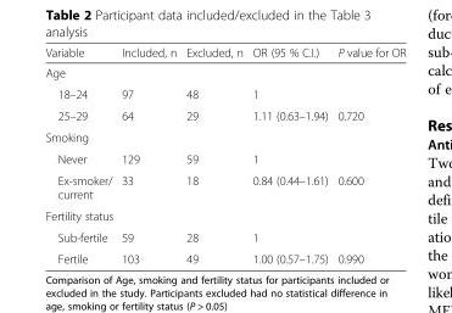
<table><thead><tr><td>Variable</td><td>Included, n</td><td>Excluded, n</td><td>OR (95 % C.I.)</td><td>P value for OR</td></tr></thead><tbody><tr><td colspan="5">Age</td></tr><tr><td>18–24</td><td>97</td><td>48</td><td>1</td><td></td></tr><tr><td>25–29</td><td>64</td><td>29</td><td>1.11 (0.63–1.94)</td><td>0.720</td></tr><tr><td colspan="5">Smoking</td></tr><tr><td>Never</td><td>129</td><td>59</td><td>1</td><td></td></tr><tr><td>Ex-smoker/ current</td><td>33</td><td>18</td><td>0.84 (0.44–1.61)</td><td>0.600</td></tr><tr><td colspan="5">Fertility status</td></tr><tr><td>Sub-fertile</td><td>59</td><td>28</td><td>1</td><td></td></tr><tr><td>Fertile</td><td>103</td><td>49</td><td>1.00 (0.57–1.75)</td><td>0.990</td></tr></tbody></table>